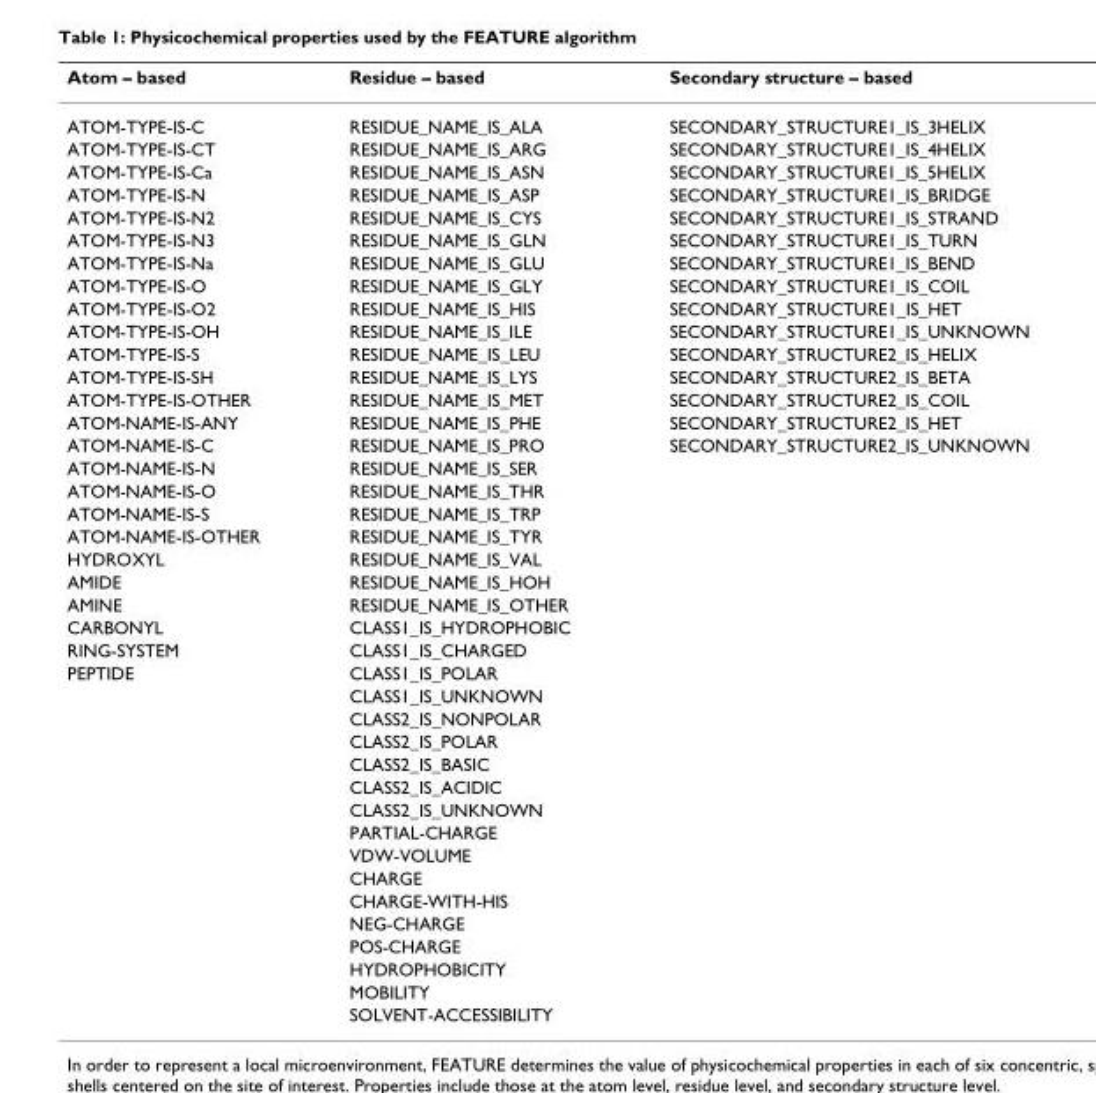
<table><thead><tr><td>Atom – based</td><td>Residue – based</td><td>Secondary structure – based</td></tr></thead><tbody><tr><td>ATOM-TYPE-IS-C</td><td>RESIDUE_NAME_IS_ALA</td><td>SECONDARY_STRUCTURE1_IS_3HELIX</td></tr><tr><td>ATOM-TYPE-IS-CT</td><td>RESIDUE_NAME_IS_ARG</td><td>SECONDARY_STRUCTURE1_IS_4HELIX</td></tr><tr><td>ATOM-TYPE-IS-Ca</td><td>RESIDUE_NAME_IS_ASN</td><td>SECONDARY_STRUCTURE1_IS_5HELIX</td></tr><tr><td>ATOM-TYPE-IS-N</td><td>RESIDUE_NAME_IS_ASP</td><td>SECONDARY_STRUCTURE1_IS_BRIDGE</td></tr><tr><td>ATOM-TYPE-IS-N2</td><td>RESIDUE_NAME_IS_CYS</td><td>SECONDARY_STRUCTURE1_IS_STRAND</td></tr><tr><td>ATOM-TYPE-IS-N3</td><td>RESIDUE_NAME_IS_GLN</td><td>SECONDARY_STRUCTURE1_IS_TURN</td></tr><tr><td>ATOM-TYPE-IS-Na</td><td>RESIDUE_NAME_IS_GLU</td><td>SECONDARY_STRUCTURE1_IS_BEND</td></tr><tr><td>ATOM-TYPE-IS-O</td><td>RESIDUE_NAME_IS_GLY</td><td>SECONDARY_STRUCTURE1_IS_COIL</td></tr><tr><td>ATOM-TYPE-IS-O2</td><td>RESIDUE_NAME_IS_HIS</td><td>SECONDARY_STRUCTURE1_IS_HET</td></tr><tr><td>ATOM-TYPE-IS-OH</td><td>RESIDUE_NAME_IS_ILE</td><td>SECONDARY_STRUCTURE1_IS_UNKNOWN</td></tr><tr><td>ATOM-TYPE-IS-S</td><td>RESIDUE_NAME_IS_LEU</td><td>SECONDARY_STRUCTURE2_IS_HELIX</td></tr><tr><td>ATOM-TYPE-IS-SH</td><td>RESIDUE_NAME_IS_LYS</td><td>SECONDARY_STRUCTURE2_IS_BETA</td></tr><tr><td>ATOM-TYPE-IS-OTHER</td><td>RESIDUE_NAME_IS_MET</td><td>SECONDARY_STRUCTURE2_IS_COIL</td></tr><tr><td>ATOM-NAME-IS-ANY</td><td>RESIDUE_NAME_IS_PHE</td><td>SECONDARY_STRUCTURE2_IS_HET</td></tr><tr><td>ATOM-NAME-IS-C</td><td>RESIDUE_NAME_IS_PRO</td><td>SECONDARY_STRUCTURE2_IS_UNKNOWN</td></tr><tr><td>ATOM-NAME-IS-N</td><td>RESIDUE_NAME_IS_SER</td><td></td></tr><tr><td>ATOM-NAME-IS-O</td><td>RESIDUE_NAME_IS_THR</td><td></td></tr><tr><td>ATOM-NAME-IS-S</td><td>RESIDUE_NAME_IS_TRP</td><td></td></tr><tr><td>ATOM-NAME-IS-OTHER</td><td>RESIDUE_NAME_IS_TYR</td><td></td></tr><tr><td>HYDROXYL</td><td>RESIDUE_NAME_IS_VAL</td><td></td></tr><tr><td>AMIDE</td><td>RESIDUE_NAME_IS_HOH</td><td></td></tr><tr><td>AMINE</td><td>RESIDUE_NAME_IS_OTHER</td><td></td></tr><tr><td>CARBONYL</td><td>CLASS1_IS_HYDROPHOBIC</td><td></td></tr><tr><td>RING-SYSTEM</td><td>CLASS1_IS_CHARGED</td><td></td></tr><tr><td rowspan="16">PEPTIDE</td><td>CLASS1_IS_POLAR</td><td></td></tr><tr><td>CLASS1_IS_UNKNOWN</td><td></td></tr><tr><td>CLASS2_IS_NONPOLAR</td><td></td></tr><tr><td>CLASS2_IS_POLAR</td><td></td></tr><tr><td>CLASS2_IS_BASIC</td><td></td></tr><tr><td>CLASS2_IS_ACIDIC</td><td></td></tr><tr><td>CLASS2_IS_UNKNOWN</td><td></td></tr><tr><td>PARTIAL-CHARGE</td><td></td></tr><tr><td>VDW-VOLUME</td><td></td></tr><tr><td>CHARGE</td><td></td></tr><tr><td>CHARGE-WITH-HIS</td><td></td></tr><tr><td>NEG-CHARGE</td><td></td></tr><tr><td>POS-CHARGE</td><td></td></tr><tr><td>HYDROPHOBICITY</td><td></td></tr><tr><td>MOBILITY</td><td></td></tr><tr><td>SOLVENT-ACCESSIBILITY</td><td></td></tr></tbody></table>